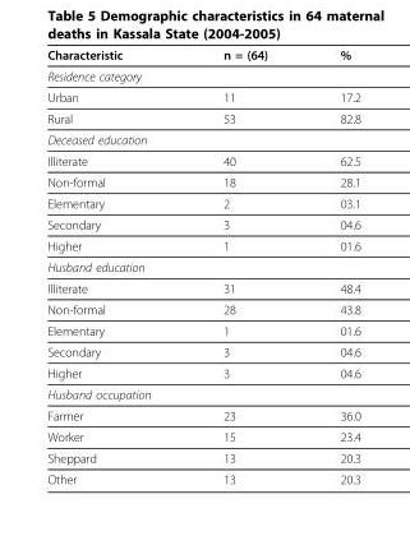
<table><thead><tr><td>Characteristic</td><td>n = (64)</td><td>%</td></tr></thead><tbody><tr><td colspan="3">Residence category</td></tr><tr><td>Urban</td><td>11</td><td>17.2</td></tr><tr><td>Rural</td><td>53</td><td>82.8</td></tr><tr><td colspan="3">Deceased education</td></tr><tr><td>Illiterate</td><td>40</td><td>62.5</td></tr><tr><td>Non-formal</td><td>18</td><td>28.1</td></tr><tr><td>Elementary</td><td>2</td><td>03.1</td></tr><tr><td>Secondary</td><td>3</td><td>04.6</td></tr><tr><td>Higher</td><td>1</td><td>01.6</td></tr><tr><td colspan="3">Husband education</td></tr><tr><td>Illiterate</td><td>31</td><td>48.4</td></tr><tr><td>Non-formal</td><td>28</td><td>43.8</td></tr><tr><td>Elementary</td><td>1</td><td>01.6</td></tr><tr><td>Secondary</td><td>3</td><td>04.6</td></tr><tr><td>Higher</td><td>3</td><td>04.6</td></tr><tr><td colspan="3">Husband occupation</td></tr><tr><td>Farmer</td><td>23</td><td>36.0</td></tr><tr><td>Worker</td><td>15</td><td>23.4</td></tr><tr><td>Sheppard</td><td>13</td><td>20.3</td></tr><tr><td>Other</td><td>13</td><td>20.3</td></tr></tbody></table>